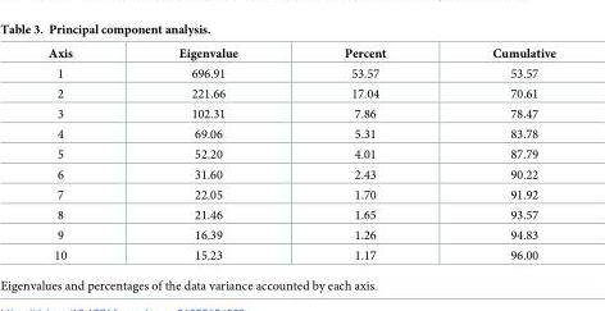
<table><thead><tr><td>Axis</td><td>Eigenvalue</td><td>Percent</td><td>Cumulative</td></tr></thead><tbody><tr><td>1</td><td>696.91</td><td>53.57</td><td>53.57</td></tr><tr><td>2</td><td>221.66</td><td>17.04</td><td>70.61</td></tr><tr><td>3</td><td>102.31</td><td>7.86</td><td>78.47</td></tr><tr><td>4</td><td>69.06</td><td>5.31</td><td>83.78</td></tr><tr><td>5</td><td>52.20</td><td>4.01</td><td>87.79</td></tr><tr><td>6</td><td>31.60</td><td>2.43</td><td>90.22</td></tr><tr><td>7</td><td>22.05</td><td>1.70</td><td>91.92</td></tr><tr><td>8</td><td>21.46</td><td>1.65</td><td>93.57</td></tr><tr><td>9</td><td>16.39</td><td>1.26</td><td>94.83</td></tr><tr><td>10</td><td>15.23</td><td>1.17</td><td>96.00</td></tr></tbody></table>